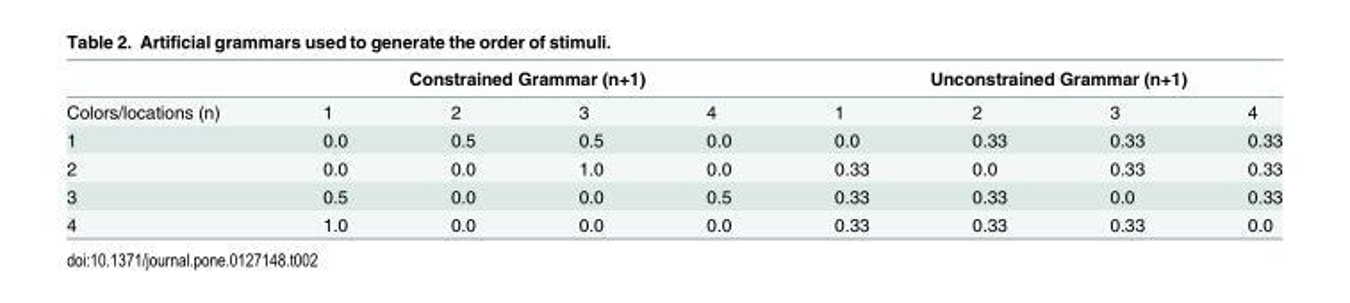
<table><thead><tr><td rowspan="2">Colors/locations (n)</td><td colspan="4">Constrained Grammar (n+1)</td><td colspan="4">Unconstrained Grammar (n+1)</td></tr><tr><td>1</td><td>2</td><td>3</td><td>4</td><td>1</td><td>2</td><td>3</td><td>4</td></tr></thead><tbody><tr><td>1</td><td>0.0</td><td>0.5</td><td>0.5</td><td>0.0</td><td>0.0</td><td>0.33</td><td>0.33</td><td>0.33</td></tr><tr><td>2</td><td>0.0</td><td>0.0</td><td>1.0</td><td>0.0</td><td>0.33</td><td>0.0</td><td>0.33</td><td>0.33</td></tr><tr><td>3</td><td>0.5</td><td>0.0</td><td>0.0</td><td>0.5</td><td>0.33</td><td>0.33</td><td>0.0</td><td>0.33</td></tr><tr><td>4</td><td>1.0</td><td>0.0</td><td>0.0</td><td>0.0</td><td>0.33</td><td>0.33</td><td>0.33</td><td>0.0</td></tr></tbody></table>